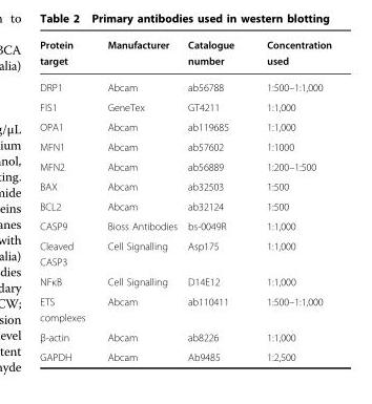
<table><thead><tr><td>Protein target</td><td>Manufacturer</td><td>Catalogue number</td><td>Concentration used</td></tr></thead><tbody><tr><td>DRP1</td><td>Abcam</td><td>ab56788</td><td>1:500–1:1,000</td></tr><tr><td>FIS1</td><td>GeneTex</td><td>GT4211</td><td>1:1,000</td></tr><tr><td>OPA1</td><td>Abcam</td><td>ab119685</td><td>1:1,000</td></tr><tr><td>MFN1</td><td>Abcam</td><td>ab57602</td><td>1:1000</td></tr><tr><td>MFN2</td><td>Abcam</td><td>ab56889</td><td>1:200–1:500</td></tr><tr><td>BAX</td><td>Abcam</td><td>ab32503</td><td>1:500</td></tr><tr><td>BCL2</td><td>Abcam</td><td>ab32124</td><td>1:500</td></tr><tr><td>CASP9</td><td>Bioss Antibodies</td><td>bs-0049R</td><td>1:1,000</td></tr><tr><td>Cleaved CASP3</td><td>Cell Signalling</td><td>Asp175</td><td>1:1,000</td></tr><tr><td>NFκB</td><td>Cell Signalling</td><td>D14E12</td><td>1:1,000</td></tr><tr><td>ETS complexes</td><td>Abcam</td><td>ab110411</td><td>1:500–1:1,000</td></tr><tr><td>β-actin</td><td>Abcam</td><td>ab8226</td><td>1:1,000</td></tr><tr><td>GAPDH</td><td>Abcam</td><td>Ab9485</td><td>1:2,500</td></tr></tbody></table>